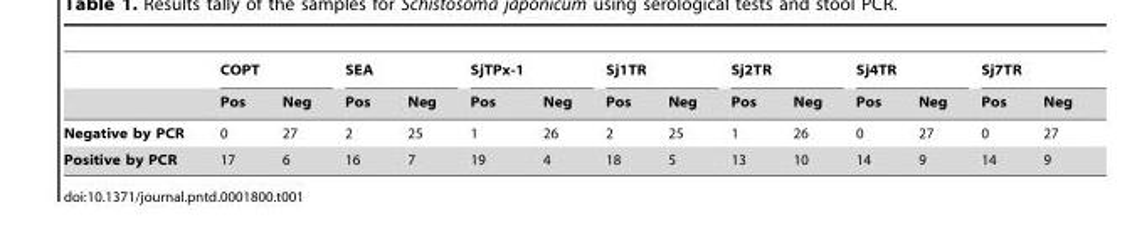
<table><thead><tr><td rowspan="2"></td><td colspan="2">COPT</td><td colspan="2">SEA</td><td colspan="2">SjTPx-1</td><td colspan="2">Sj1TR</td><td colspan="2">Sj2TR</td><td colspan="2">Sj4TR</td><td colspan="2">Sj7TR</td></tr><tr><td>Pos</td><td>Neg</td><td>Pos</td><td>Neg</td><td>Pos</td><td>Neg</td><td>Pos</td><td>Neg</td><td>Pos</td><td>Neg</td><td>Pos</td><td>Neg</td><td>Pos</td><td>Neg</td></tr></thead><tbody><tr><td>Negative by PCR</td><td>0</td><td>27</td><td>2</td><td>25</td><td>1</td><td>26</td><td>2</td><td>25</td><td>1</td><td>26</td><td>0</td><td>27</td><td>0</td><td>27</td></tr><tr><td>Positive by PCR</td><td>17</td><td>6</td><td>16</td><td>7</td><td>19</td><td>4</td><td>18</td><td>5</td><td>13</td><td>10</td><td>14</td><td>9</td><td>14</td><td>9</td></tr></tbody></table>